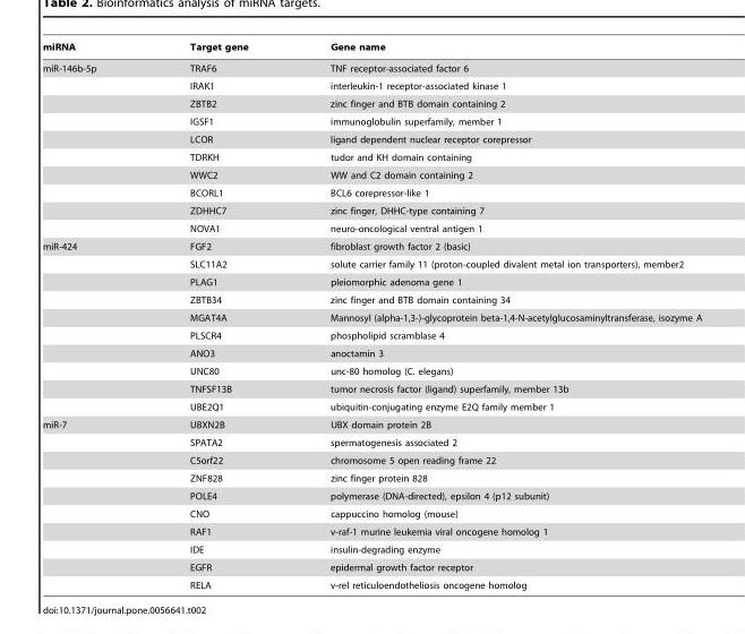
<table><thead><tr><td>miRNA</td><td>Target gene</td><td>Gene name</td></tr></thead><tbody><tr><td rowspan="10">miR-146b-5p</td><td>TRAF6</td><td>TNF receptor-associated factor 6</td></tr><tr><td>IRAK1</td><td>interleukin-1 receptor-associated kinase 1</td></tr><tr><td>ZBTB2</td><td>zinc finger and BTB domain containing 2</td></tr><tr><td>IGSF1</td><td>immunoglobulin superfamily, member 1</td></tr><tr><td>LCOR</td><td>ligand dependent nuclear receptor corepressor</td></tr><tr><td>TDRKH</td><td>tudor and KH domain containing</td></tr><tr><td>WWC2</td><td>WW and C2 domain containing 2</td></tr><tr><td>BCORL1</td><td>BCL6 corepressor-like 1</td></tr><tr><td>ZDHHC7</td><td>zinc finger, DHHC-type containing 7</td></tr><tr><td>NOVA1</td><td>neuro-oncological ventral antigen 1</td></tr><tr><td rowspan="10">miR-424</td><td>FGF2</td><td>fibroblast growth factor 2 (basic)</td></tr><tr><td>SLC11A2</td><td>solute carrier family 11 (proton-coupled divalent metal ion transporters), member2</td></tr><tr><td>PLAG1</td><td>pleiomorphic adenoma gene 1</td></tr><tr><td>ZBTB34</td><td>zinc finger and BTB domain containing 34</td></tr><tr><td>MGAT4A</td><td>Mannosyl (alpha-1,3-)-glycoprotein beta-1,4-N-acetylglucosaminyltransferase, isozyme A</td></tr><tr><td>PLSCR4</td><td>phospholipid scramblase 4</td></tr><tr><td>ANO3</td><td>anoctamin 3</td></tr><tr><td>UNC80</td><td>unc-80 homolog (C. elegans)</td></tr><tr><td>TNFSF13B</td><td>tumor necrosis factor (ligand) superfamily, member 13b</td></tr><tr><td>UBE2Q1</td><td>ubiquitin-conjugating enzyme E2Q family member 1</td></tr><tr><td rowspan="10">miR-7</td><td>UBXN2B</td><td>UBX domain protein 2B</td></tr><tr><td>SPATA2</td><td>spermatogenesis associated 2</td></tr><tr><td>C5orf22</td><td>chromosome 5 open reading frame 22</td></tr><tr><td>ZNF828</td><td>zinc finger protein 828</td></tr><tr><td>POLE4</td><td>polymerase (DNA-directed), epsilon 4 (p12 subunit)</td></tr><tr><td>CNO</td><td>cappuccino homolog (mouse)</td></tr><tr><td>RAF1</td><td>v-raf-1 murine leukemia viral oncogene homolog 1</td></tr><tr><td>IDE</td><td>insulin-degrading enzyme</td></tr><tr><td>EGFR</td><td>epidermal growth factor receptor</td></tr><tr><td>RELA</td><td>v-rel reticuloendotheliosis oncogene homolog</td></tr></tbody></table>